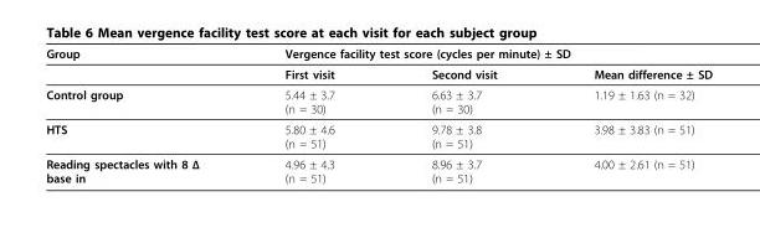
<table><thead><tr><td rowspan="2">Group</td><td colspan="3">Vergence facility test score (cycles per minute) ± SD</td></tr><tr><td>First visit</td><td>Second visit</td><td>Mean difference ± SD</td></tr></thead><tbody><tr><td>Control group</td><td>5.44 ± 3.7 (n = 30)</td><td>6.63 ± 3.7 (n = 30)</td><td>1.19 ± 1.63 (n = 32)</td></tr><tr><td>HTS</td><td>5.80 ± 4.6 (n = 51)</td><td>9.78 ± 3.8 (n = 51)</td><td>3.98 ± 3.83 (n = 51)</td></tr><tr><td>Reading spectacles with 8 Δ base in</td><td>4.96 ± 4.3 (n = 51)</td><td>8.96 ± 3.7 (n = 51)</td><td>4.00 ± 2.61 (n = 51)</td></tr></tbody></table>